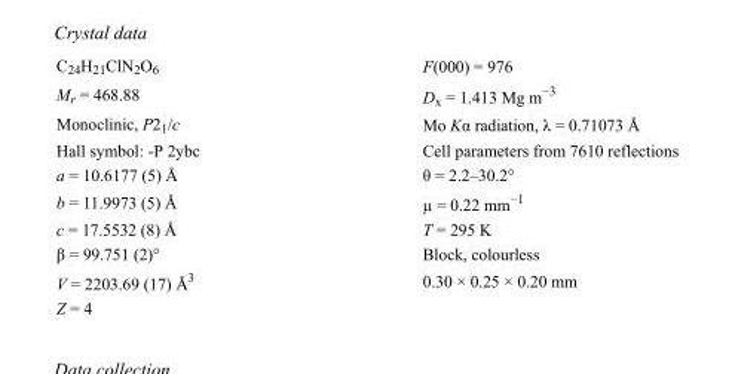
<table><tbody><tr><td>C<sub>24</sub>H<sub>21</sub>ClN<sub>2</sub>O<sub>6</sub></td><td>F(000) = 976</td></tr><tr><td>M<sub>r</sub> = 468.88</td><td>D<sub>x</sub> = 1.413 Mg m<sup>−3</sup></td></tr><tr><td>Monoclinic, P2<sub>1</sub>/c</td><td>Mo Kα radiation, λ = 0.71073 Å</td></tr><tr><td>Hall symbol: -P 2ybc</td><td>Cell parameters from 7610 reflections</td></tr><tr><td>a = 10.6177 (5) Å</td><td>θ = 2.2–30.2°</td></tr><tr><td>b = 11.9973 (5) Å</td><td>µ = 0.22 mm<sup>−1</sup></td></tr><tr><td>c = 17.5532 (8) Å</td><td>T = 295 K</td></tr><tr><td>β = 99.751 (2)°</td><td>Block, colourless</td></tr><tr><td>V = 2203.69 (17) Å<sup>3</sup></td><td>0.30 × 0.25 × 0.20 mm</td></tr><tr><td>Z = 4</td><td></td></tr></tbody></table>